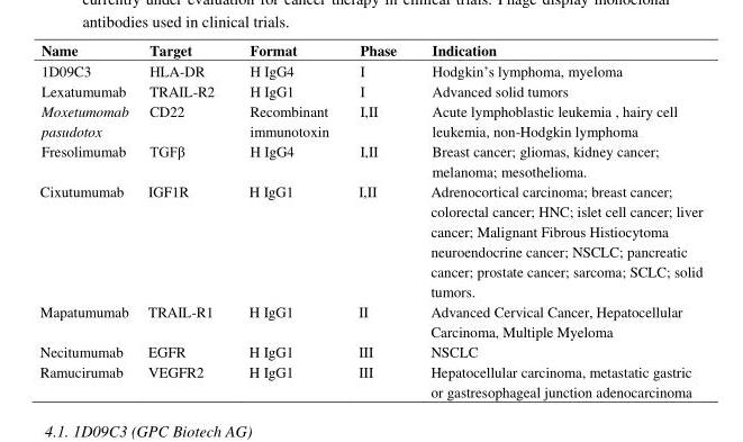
<table><thead><tr><td>Name</td><td>Target</td><td>Format</td><td>Phase</td><td>Indication</td></tr></thead><tbody><tr><td>1D09C3</td><td>HLA-DR</td><td>H IgG4</td><td>I</td><td>Hodgkin’s lymphoma, myeloma</td></tr><tr><td>Lexatumumab</td><td>TRAIL-R2</td><td>H IgG1</td><td>I</td><td>Advanced solid tumors</td></tr><tr><td>Moxetumomab pasudotox</td><td>CD22</td><td>Recombinant immunotoxin</td><td>I,II</td><td>Acute lymphoblastic leukemia , hairy cell leukemia, non-Hodgkin lymphoma</td></tr><tr><td>Fresolimumab</td><td>TGFβ</td><td>H IgG4</td><td>I,II</td><td>Breast cancer; gliomas, kidney cancer; melanoma; mesothelioma.</td></tr><tr><td>Cixutumumab</td><td>IGF1R</td><td>H IgG1</td><td>I,II</td><td>Adrenocortical carcinoma; breast cancer; colorectal cancer; HNC; islet cell cancer; liver cancer; Malignant Fibrous Histiocytoma neuroendocrine cancer; NSCLC; pancreatic cancer; prostate cancer; sarcoma; SCLC; solid tumors.</td></tr><tr><td>Mapatumumab</td><td>TRAIL-R1</td><td>H IgG1</td><td>II</td><td>Advanced Cervical Cancer, Hepatocellular Carcinoma, Multiple Myeloma</td></tr><tr><td>Necitumumab</td><td>EGFR</td><td>H IgG1</td><td>III</td><td>NSCLC</td></tr><tr><td>Ramucirumab</td><td>VEGFR2</td><td>H IgG1</td><td>III</td><td>Hepatocellular carcinoma, metastatic gastric or gastresophageal junction adenocarcinoma</td></tr></tbody></table>